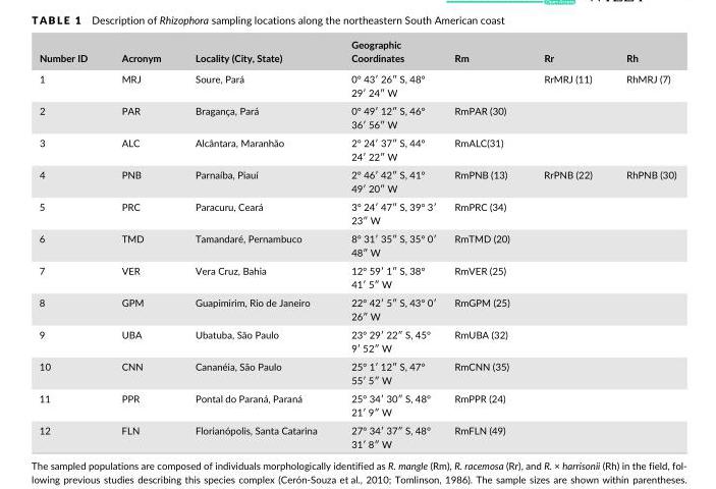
<table><thead><tr><td>Number ID</td><td>Acronym</td><td>Locality (City, State)</td><td>Geographic Coordinates</td><td>Rm</td><td>Rr</td><td>Rh</td></tr></thead><tbody><tr><td>1</td><td>MRJ</td><td>Soure, Pará</td><td>0° 43′ 26″ S, 48° 29′ 24″ W</td><td></td><td>RrMRJ (11)</td><td>RhMRJ (7)</td></tr><tr><td>2</td><td>PAR</td><td>Bragança, Pará</td><td>0° 49′ 12″ S, 46° 36′ 56″ W</td><td>RmPAR (30)</td><td></td><td></td></tr><tr><td>3</td><td>ALC</td><td>Alcântara, Maranhão</td><td>2° 24′ 37″ S, 44° 24′ 22″ W</td><td>RmALC(31)</td><td></td><td></td></tr><tr><td>4</td><td>PNB</td><td>Parnaíba, Piauí</td><td>2° 46′ 42″ S, 41° 49′ 20″ W</td><td>RmPNB (13)</td><td>RrPNB (22)</td><td>RhPNB (30)</td></tr><tr><td>5</td><td>PRC</td><td>Paracuru, Ceará</td><td>3° 24′ 47″ S, 39° 3′ 23″ W</td><td>RmPRC (34)</td><td></td><td></td></tr><tr><td>6</td><td>TMD</td><td>Tamandaré, Pernambuco</td><td>8° 31′ 35″ S, 35° 0′ 48″ W</td><td>RmTMD (20)</td><td></td><td></td></tr><tr><td>7</td><td>VER</td><td>Vera Cruz, Bahia</td><td>12° 59′ 1″ S, 38° 41′ 5″ W</td><td>RmVER (25)</td><td></td><td></td></tr><tr><td>8</td><td>GPM</td><td>Guapimirim, Rio de Janeiro</td><td>22° 42′ 5″ S, 43° 0′ 26″ W</td><td>RmGPM (25)</td><td></td><td></td></tr><tr><td>9</td><td>UBA</td><td>Ubatuba, São Paulo</td><td>23° 29′ 22″ S, 45° 9′ 52″ W</td><td>RmUBA (32)</td><td></td><td></td></tr><tr><td>10</td><td>CNN</td><td>Cananéia, São Paulo</td><td>25° 1′ 12″ S, 47° 55′ 5″ W</td><td>RmCNN (35)</td><td></td><td></td></tr><tr><td>11</td><td>PPR</td><td>Pontal do Paraná, Paraná</td><td>25° 34′ 30″ S, 48° 21′ 9″ W</td><td>RmPPR (24)</td><td></td><td></td></tr><tr><td>12</td><td>FLN</td><td>Florianópolis, Santa Catarina</td><td>27° 34′ 37″ S, 48° 31′ 8″ W</td><td>RmFLN (49)</td><td></td><td></td></tr></tbody></table>